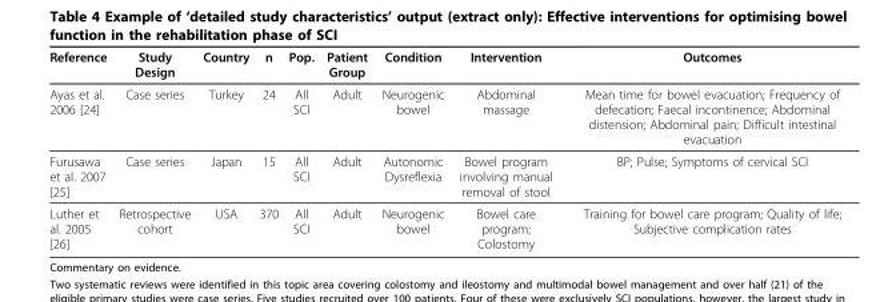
<table><thead><tr><td>Reference</td><td>Study Design</td><td>Country</td><td>n</td><td>Pop.</td><td>Patient Group</td><td>Condition</td><td>Intervention</td><td>Outcomes</td></tr></thead><tbody><tr><td>Ayas et al. 2006 [24]</td><td>Case series</td><td>Turkey</td><td>24</td><td>All SCI</td><td>Adult</td><td>Neurogenic bowel</td><td>Abdominal massage</td><td>Mean time for bowel evacuation; Frequency of defecation; Faecal incontinence; Abdominal distension; Abdominal pain; Difficult intestinal evacuation</td></tr><tr><td>Furusawa et al. 2007 [25]</td><td>Case series</td><td>Japan</td><td>15</td><td>All SCI</td><td>Adult</td><td>Autonomic Dysreflexia</td><td>Bowel program involving manual removal of stool</td><td>BP; Pulse; Symptoms of cervical SCI</td></tr><tr><td>Luther et al. 2005 [26]</td><td>Retrospective cohort</td><td>USA</td><td>370</td><td>All SCI</td><td>Adult</td><td>Neurogenic bowel</td><td>Bowel care program; Colostomy</td><td>Training for bowel care program; Quality of life; Subjective complication rates</td></tr></tbody></table>